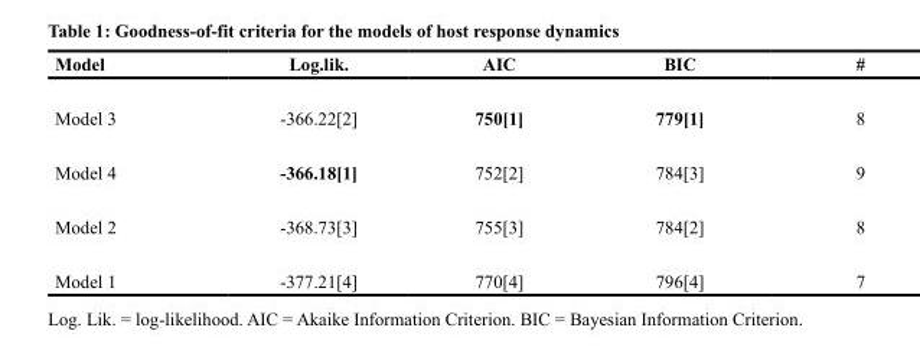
<table><thead><tr><td>Model</td><td>Log.lik.</td><td>AIC</td><td>BIC</td><td>#</td></tr></thead><tbody><tr><td>Model 3</td><td>-366.22[2]</td><td>750[1]</td><td>779[1]</td><td>8</td></tr><tr><td>Model 4</td><td>-366.18[1]</td><td>752[2]</td><td>784[3]</td><td>9</td></tr><tr><td>Model 2</td><td>-368.73[3]</td><td>755[3]</td><td>784[2]</td><td>8</td></tr><tr><td>Model 1</td><td>-377.21[4]</td><td>770[4]</td><td>796[4]</td><td>7</td></tr></tbody></table>